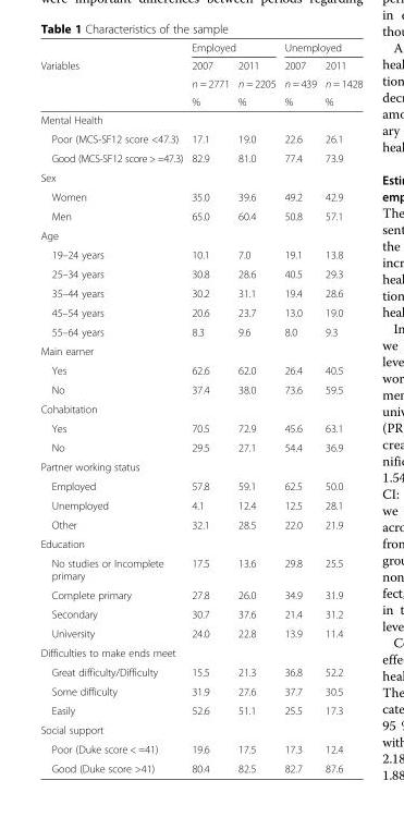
<table><thead><tr><td rowspan="4">Variables</td><td colspan="2">Employed</td><td colspan="2">Unemployed</td></tr><tr><td rowspan="3">2007 n = 2771 %</td><td rowspan="3">2011 n = 2205 %</td><td rowspan="3">2007 n = 439 %</td><td rowspan="3">2011 n = 1428 %</td></tr><tr></tr><tr></tr></thead><tbody><tr><td colspan="5">Mental Health</td></tr><tr><td>Poor (MCS-SF12 score &lt;47.3)</td><td>17.1</td><td>19.0</td><td>22.6</td><td>26.1</td></tr><tr><td>Good (MCS-SF12 score &gt; =47.3)</td><td>82.9</td><td>81.0</td><td>77.4</td><td>73.9</td></tr><tr><td colspan="5">Sex</td></tr><tr><td>Women</td><td>35.0</td><td>39.6</td><td>49.2</td><td>42.9</td></tr><tr><td>Men</td><td>65.0</td><td>60.4</td><td>50.8</td><td>57.1</td></tr><tr><td colspan="5">Age</td></tr><tr><td>19–24 years</td><td>10.1</td><td>7.0</td><td>19.1</td><td>13.8</td></tr><tr><td>25–34 years</td><td>30.8</td><td>28.6</td><td>40.5</td><td>29.3</td></tr><tr><td>35–44 years</td><td>30.2</td><td>31.1</td><td>19.4</td><td>28.6</td></tr><tr><td>45–54 years</td><td>20.6</td><td>23.7</td><td>13.0</td><td>19.0</td></tr><tr><td>55–64 years</td><td>8.3</td><td>9.6</td><td>8.0</td><td>9.3</td></tr><tr><td colspan="5">Main earner</td></tr><tr><td>Yes</td><td>62.6</td><td>62.0</td><td>26.4</td><td>40.5</td></tr><tr><td>No</td><td>37.4</td><td>38.0</td><td>73.6</td><td>59.5</td></tr><tr><td colspan="5">Cohabitation</td></tr><tr><td>Yes</td><td>70.5</td><td>72.9</td><td>45.6</td><td>63.1</td></tr><tr><td>No</td><td>29.5</td><td>27.1</td><td>54.4</td><td>36.9</td></tr><tr><td colspan="5">Partner working status</td></tr><tr><td>Employed</td><td>57.8</td><td>59.1</td><td>62.5</td><td>50.0</td></tr><tr><td>Unemployed</td><td>4.1</td><td>12.4</td><td>12.5</td><td>28.1</td></tr><tr><td>Other</td><td>32.1</td><td>28.5</td><td>22.0</td><td>21.9</td></tr><tr><td colspan="5">Education</td></tr><tr><td>No studies or Incomplete primary</td><td>17.5</td><td>13.6</td><td>29.8</td><td>25.5</td></tr><tr><td>Complete primary</td><td>27.8</td><td>26.0</td><td>34.9</td><td>31.9</td></tr><tr><td>Secondary</td><td>30.7</td><td>37.6</td><td>21.4</td><td>31.2</td></tr><tr><td>University</td><td>24.0</td><td>22.8</td><td>13.9</td><td>11.4</td></tr><tr><td colspan="5">Difficulties to make ends meet</td></tr><tr><td>Great difficulty/Difficulty</td><td>15.5</td><td>21.3</td><td>36.8</td><td>52.2</td></tr><tr><td>Some difficulty</td><td>31.9</td><td>27.6</td><td>37.7</td><td>30.5</td></tr><tr><td>Easily</td><td>52.6</td><td>51.1</td><td>25.5</td><td>17.3</td></tr><tr><td colspan="5">Social support</td></tr><tr><td>Poor (Duke score &lt; =41)</td><td>19.6</td><td>17.5</td><td>17.3</td><td>12.4</td></tr><tr><td>Good (Duke score &gt;41)</td><td>80.4</td><td>82.5</td><td>82.7</td><td>87.6</td></tr></tbody></table>